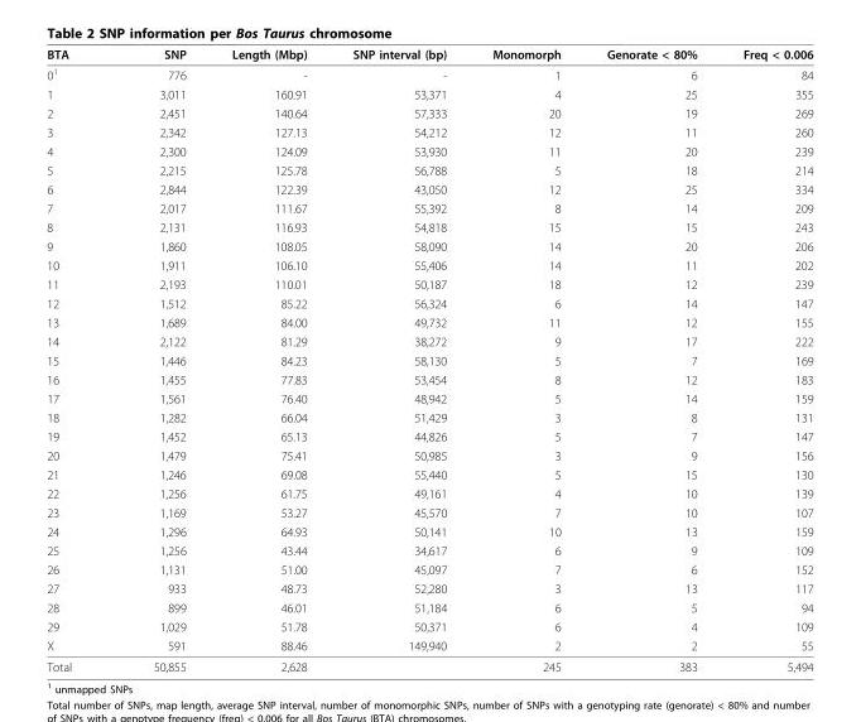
<table><thead><tr><td>BTA</td><td>SNP</td><td>Length (Mbp)</td><td>SNP interval (bp)</td><td>Monomorph</td><td>Genorate &lt; 80%</td><td>Freq &lt; 0.006</td></tr></thead><tbody><tr><td>0<sup>1</sup></td><td>776</td><td>-</td><td>-</td><td>1</td><td>6</td><td>84</td></tr><tr><td>1</td><td>3,011</td><td>160.91</td><td>53,371</td><td>4</td><td>25</td><td>355</td></tr><tr><td>2</td><td>2,451</td><td>140.64</td><td>57,333</td><td>20</td><td>19</td><td>269</td></tr><tr><td>3</td><td>2,342</td><td>127.13</td><td>54,212</td><td>12</td><td>11</td><td>260</td></tr><tr><td>4</td><td>2,300</td><td>124.09</td><td>53,930</td><td>11</td><td>20</td><td>239</td></tr><tr><td>5</td><td>2,215</td><td>125.78</td><td>56,788</td><td>5</td><td>18</td><td>214</td></tr><tr><td>6</td><td>2,844</td><td>122.39</td><td>43,050</td><td>12</td><td>25</td><td>334</td></tr><tr><td>7</td><td>2,017</td><td>111.67</td><td>55,392</td><td>8</td><td>14</td><td>209</td></tr><tr><td>8</td><td>2,131</td><td>116.93</td><td>54,818</td><td>15</td><td>15</td><td>243</td></tr><tr><td>9</td><td>1,860</td><td>108.05</td><td>58,090</td><td>14</td><td>20</td><td>206</td></tr><tr><td>10</td><td>1,911</td><td>106.10</td><td>55,406</td><td>14</td><td>11</td><td>202</td></tr><tr><td>11</td><td>2,193</td><td>110.01</td><td>50,187</td><td>18</td><td>12</td><td>239</td></tr><tr><td>12</td><td>1,512</td><td>85.22</td><td>56,324</td><td>6</td><td>14</td><td>147</td></tr><tr><td>13</td><td>1,689</td><td>84.00</td><td>49,732</td><td>11</td><td>12</td><td>155</td></tr><tr><td>14</td><td>2,122</td><td>81.29</td><td>38,272</td><td>9</td><td>17</td><td>222</td></tr><tr><td>15</td><td>1,446</td><td>84.23</td><td>58,130</td><td>5</td><td>7</td><td>169</td></tr><tr><td>16</td><td>1,455</td><td>77.83</td><td>53,454</td><td>8</td><td>12</td><td>183</td></tr><tr><td>17</td><td>1,561</td><td>76.40</td><td>48,942</td><td>5</td><td>14</td><td>159</td></tr><tr><td>18</td><td>1,282</td><td>66.04</td><td>51,429</td><td>3</td><td>8</td><td>131</td></tr><tr><td>19</td><td>1,452</td><td>65.13</td><td>44,826</td><td>5</td><td>7</td><td>147</td></tr><tr><td>20</td><td>1,479</td><td>75.41</td><td>50,985</td><td>3</td><td>9</td><td>156</td></tr><tr><td>21</td><td>1,246</td><td>69.08</td><td>55,440</td><td>5</td><td>15</td><td>130</td></tr><tr><td>22</td><td>1,256</td><td>61.75</td><td>49,161</td><td>4</td><td>10</td><td>139</td></tr><tr><td>23</td><td>1,169</td><td>53.27</td><td>45,570</td><td>7</td><td>10</td><td>107</td></tr><tr><td>24</td><td>1,296</td><td>64.93</td><td>50,141</td><td>10</td><td>13</td><td>159</td></tr><tr><td>25</td><td>1,256</td><td>43.44</td><td>34,617</td><td>6</td><td>9</td><td>109</td></tr><tr><td>26</td><td>1,131</td><td>51.00</td><td>45,097</td><td>7</td><td>6</td><td>152</td></tr><tr><td>27</td><td>933</td><td>48.73</td><td>52,280</td><td>3</td><td>13</td><td>117</td></tr><tr><td>28</td><td>899</td><td>46.01</td><td>51,184</td><td>6</td><td>5</td><td>94</td></tr><tr><td>29</td><td>1,029</td><td>51.78</td><td>50,371</td><td>6</td><td>4</td><td>109</td></tr><tr><td>X</td><td>591</td><td>88.46</td><td>149,940</td><td>2</td><td>2</td><td>55</td></tr><tr><td>Total</td><td>50,855</td><td>2,628</td><td></td><td>245</td><td>383</td><td>5,494</td></tr></tbody></table>